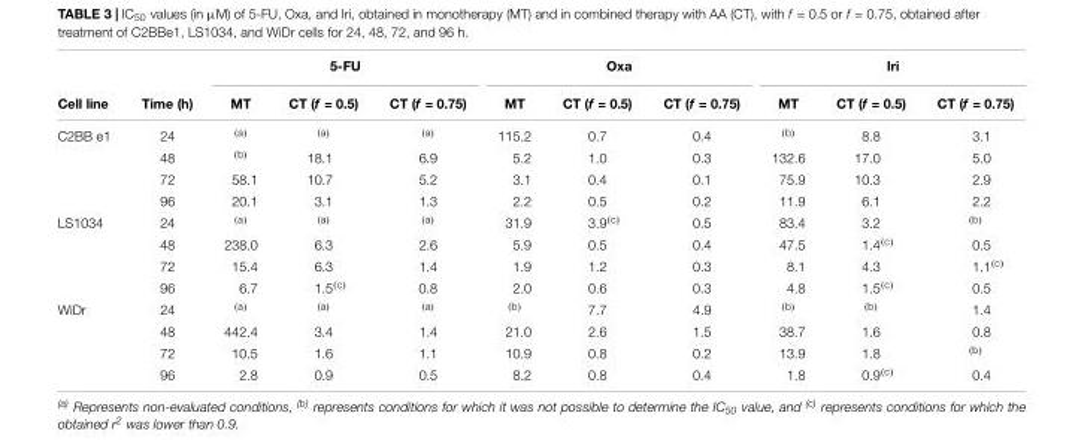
<table><thead><tr><td rowspan="2">Cell line</td><td rowspan="2">Time (h)</td><td colspan="3">5-FU</td><td colspan="3">Oxa</td><td colspan="3">Iri</td></tr><tr><td>MT</td><td>CT (f = 0.5)</td><td>CT (f = 0.75)</td><td>MT</td><td>CT (f = 0.5)</td><td>CT (f = 0.75)</td><td>MT</td><td>CT (f = 0.5)</td><td>CT (f = 0.75)</td></tr></thead><tbody><tr><td rowspan="4">C2BB e1</td><td>24</td><td><sup>(a)</sup></td><td><sup>(a)</sup></td><td><sup>(a)</sup></td><td>115.2</td><td>0.7</td><td>0.4</td><td><sup>(b)</sup></td><td>8.8</td><td>3.1</td></tr><tr><td>48</td><td><sup>(b)</sup></td><td>18.1</td><td>6.9</td><td>5.2</td><td>1.0</td><td>0.3</td><td>132.6</td><td>17.0</td><td>5.0</td></tr><tr><td>72</td><td>58.1</td><td>10.7</td><td>5.2</td><td>3.1</td><td>0.4</td><td>0.1</td><td>75.9</td><td>10.3</td><td>2.9</td></tr><tr><td>96</td><td>20.1</td><td>3.1</td><td>1.3</td><td>2.2</td><td>0.5</td><td>0.2</td><td>11.9</td><td>6.1</td><td>2.2</td></tr><tr><td rowspan="4">LS1034</td><td>24</td><td><sup>(a)</sup></td><td><sup>(a)</sup></td><td><sup>(a)</sup></td><td>31.9</td><td>3.9<sup>(c)</sup></td><td>0.5</td><td>83.4</td><td>3.2</td><td><sup>(b)</sup></td></tr><tr><td>48</td><td>238.0</td><td>6.3</td><td>2.6</td><td>5.9</td><td>0.5</td><td>0.4</td><td>47.5</td><td>1.4<sup>(c)</sup></td><td>0.5</td></tr><tr><td>72</td><td>15.4</td><td>6.3</td><td>1.4</td><td>1.9</td><td>1.2</td><td>0.3</td><td>8.1</td><td>4.3</td><td>1.1<sup>(c)</sup></td></tr><tr><td>96</td><td>6.7</td><td>1.5<sup>(c)</sup></td><td>0.8</td><td>2.0</td><td>0.6</td><td>0.3</td><td>4.8</td><td>1.5<sup>(c)</sup></td><td>0.5</td></tr><tr><td rowspan="4">WiDr</td><td>24</td><td><sup>(a)</sup></td><td><sup>(a)</sup></td><td><sup>(a)</sup></td><td><sup>(b)</sup></td><td>7.7</td><td>4.9</td><td><sup>(b)</sup></td><td><sup>(b)</sup></td><td>1.4</td></tr><tr><td>48</td><td>442.4</td><td>3.4</td><td>1.4</td><td>21.0</td><td>2.6</td><td>1.5</td><td>38.7</td><td>1.6</td><td>0.8</td></tr><tr><td>72</td><td>10.5</td><td>1.6</td><td>1.1</td><td>10.9</td><td>0.8</td><td>0.2</td><td>13.9</td><td>1.8</td><td><sup>(b)</sup></td></tr><tr><td>96</td><td>2.8</td><td>0.9</td><td>0.5</td><td>8.2</td><td>0.8</td><td>0.4</td><td>1.8</td><td>0.9<sup>(c)</sup></td><td>0.4</td></tr></tbody></table>